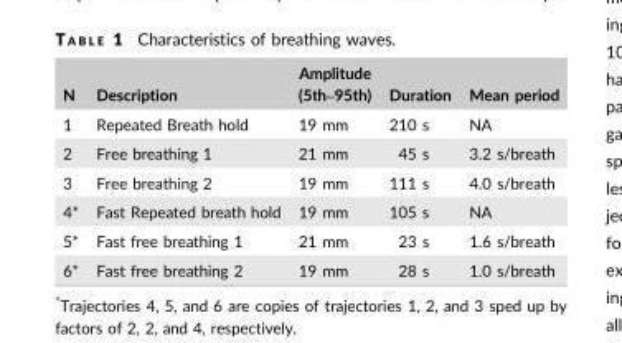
<table><thead><tr><td>N</td><td>Description</td><td>Amplitude (5th–95th)</td><td>Duration</td><td>Mean period</td></tr></thead><tbody><tr><td>1</td><td>Repeated Breath hold</td><td>19 mm</td><td>210 s</td><td>NA</td></tr><tr><td>2</td><td>Free breathing 1</td><td>21 mm</td><td>45 s</td><td>3.2 s/breath</td></tr><tr><td>3</td><td>Free breathing 2</td><td>19 mm</td><td>111 s</td><td>4.0 s/breath</td></tr><tr><td>4*</td><td>Fast Repeated breath hold</td><td>19 mm</td><td>105 s</td><td>NA</td></tr><tr><td>5*</td><td>Fast free breathing 1</td><td>21 mm</td><td>23 s</td><td>1.6 s/breath</td></tr><tr><td>6*</td><td>Fast free breathing 2</td><td>19 mm</td><td>28 s</td><td>1.0 s/breath</td></tr></tbody></table>